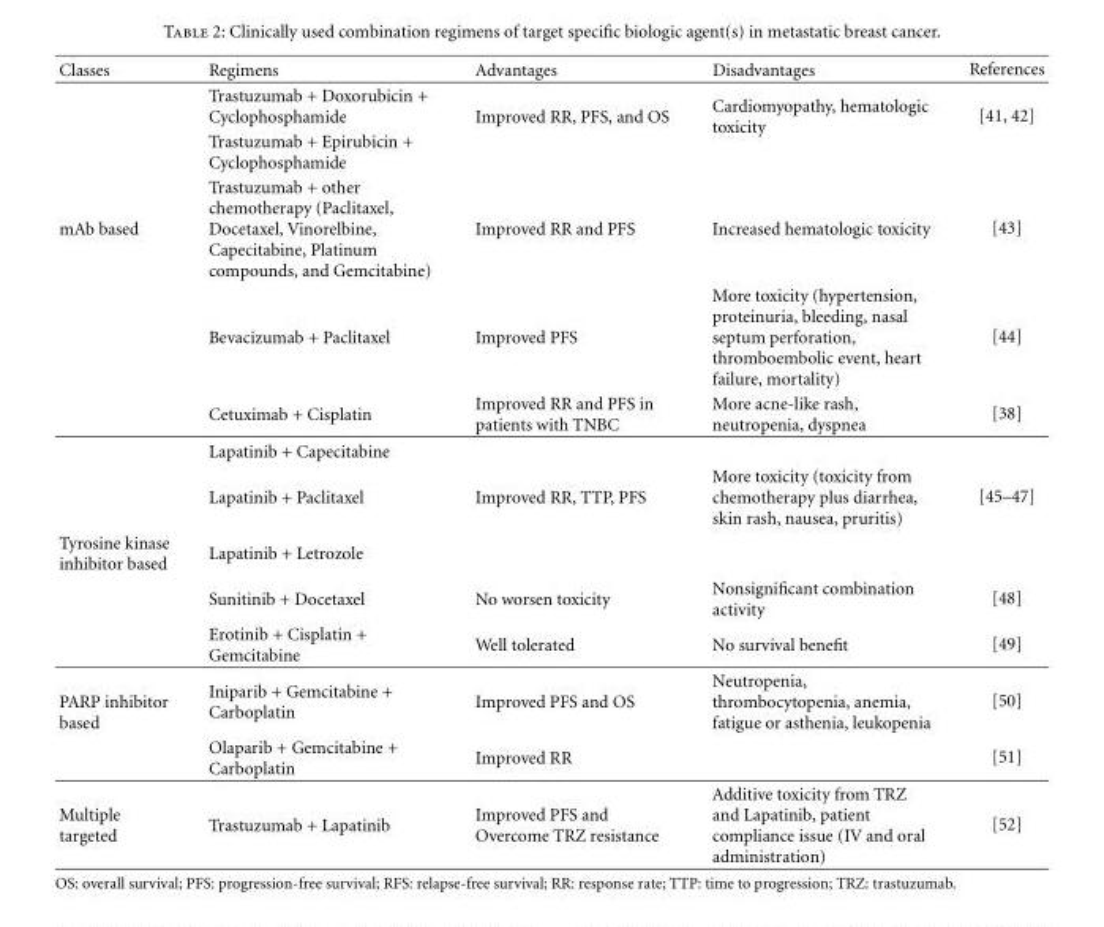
<table><thead><tr><td>Classes</td><td>Regimens</td><td>Advantages</td><td>Disadvantages</td><td>References</td></tr></thead><tbody><tr><td></td><td>Trastuzumab + Doxorubicin + Cyclophosphamide</td><td rowspan="2">Improved RR, PFS, and OS</td><td rowspan="2">Cardiomyopathy, hematologic toxicity</td><td rowspan="2">[41, 42]</td></tr><tr><td></td><td>Trastuzumab + Epirubicin + Cyclophosphamide</td></tr><tr><td rowspan="5">mAb based</td><td>Trastuzumab + other chemotherapy (Paclitaxel, Docetaxel, Vinorelbine, Capecitabine, Platinum compounds, and Gemcitabine)</td><td>Improved RR and PFS</td><td>Increased hematologic toxicity</td><td>[43]</td></tr><tr><td>Bevacizumab + Paclitaxel</td><td>Improved PFS</td><td>More toxicity (hypertension, proteinuria, bleeding, nasal septum perforation, thromboembolic event, heart failure, mortality)</td><td>[44]</td></tr><tr><td>Cetuximab + Cisplatin</td><td>Improved RR and PFS in patients with TNBC</td><td>More acne-like rash, neutropenia, dyspnea</td><td>[38]</td></tr><tr><td>Lapatinib + Capecitabine</td><td></td><td></td><td></td></tr><tr><td>Lapatinib + Paclitaxel</td><td>Improved RR, TTP, PFS</td><td>More toxicity (toxicity from chemotherapy plus diarrhea, skin rash, nausea, pruritis)</td><td>[45–47]</td></tr><tr><td rowspan="3">Tyrosine kinase inhibitor based</td><td>Lapatinib + Letrozole</td><td></td><td></td><td></td></tr><tr><td>Sunitinib + Docetaxel</td><td>No worsen toxicity</td><td>Nonsignificant combination activity</td><td>[48]</td></tr><tr><td>Erotinib + Cisplatin + Gemcitabine</td><td>Well tolerated</td><td>No survival benefit</td><td>[49]</td></tr><tr><td rowspan="2">PARP inhibitor based</td><td>Iniparib + Gemcitabine + Carboplatin</td><td>Improved PFS and OS</td><td>Neutropenia, thrombocytopenia, anemia, fatigue or asthenia, leukopenia</td><td>[50]</td></tr><tr><td>Olaparib + Gemcitabine + Carboplatin</td><td>Improved RR</td><td></td><td>[51]</td></tr><tr><td>Multiple targeted</td><td>Trastuzumab + Lapatinib</td><td>Improved PFS and Overcome TRZ resistance</td><td>Additive toxicity from TRZ and Lapatinib, patient compliance issue (IV and oral administration)</td><td>[52]</td></tr></tbody></table>